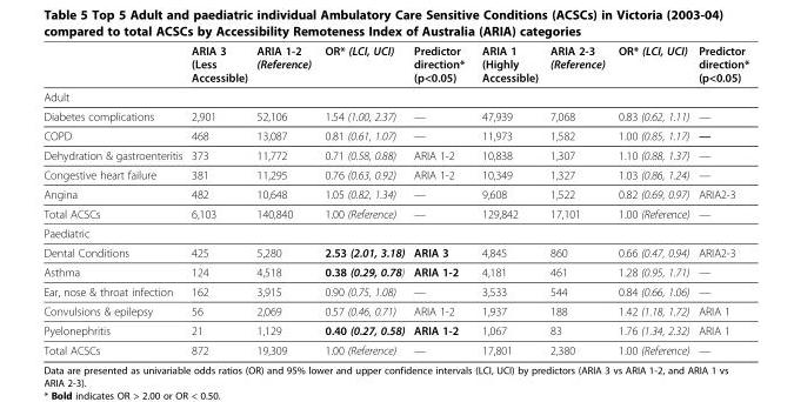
<table><thead><tr><td></td><td>ARIA 3 (Less Accessible)</td><td>ARIA 1-2 (Reference)</td><td>OR* (LCI, UCI)</td><td>Predictor direction* (p&lt;0.05)</td><td>ARIA 1 (Highly Accessible)</td><td>ARIA 2-3 (Reference)</td><td>OR* (LCI, UCI)</td><td>Predictor direction* (p&lt;0.05)</td></tr></thead><tbody><tr><td colspan="9">Adult</td></tr><tr><td>Diabetes complications</td><td>2,901</td><td>52,106</td><td>1.54 (1.00, 2.37)</td><td>—</td><td>47,939</td><td>7,068</td><td>0.83 (0.62, 1.11)</td><td>—</td></tr><tr><td>COPD</td><td>468</td><td>13,087</td><td>0.81 (0.61, 1.07)</td><td>—</td><td>11,973</td><td>1,582</td><td>1.00 (0.85, 1.17)</td><td>—</td></tr><tr><td>Dehydration &amp; gastroenteritis</td><td>373</td><td>11,772</td><td>0.71 (0.58, 0.88)</td><td>ARIA 1-2</td><td>10,838</td><td>1,307</td><td>1.10 (0.88, 1.37)</td><td>—</td></tr><tr><td>Congestive heart failure</td><td>381</td><td>11,295</td><td>0.76 (0.63, 0.92)</td><td>ARIA 1-2</td><td>10,349</td><td>1,327</td><td>1.03 (0.86, 1.24)</td><td>—</td></tr><tr><td>Angina</td><td>482</td><td>10,648</td><td>1.05 (0.82, 1.34)</td><td>—</td><td>9,608</td><td>1,522</td><td>0.82 (0.69, 0.97)</td><td>ARIA2-3</td></tr><tr><td>Total ACSCs</td><td>6,103</td><td>140,840</td><td>1.00 (Reference)</td><td>—</td><td>129,842</td><td>17,101</td><td>1.00 (Reference)</td><td>—</td></tr><tr><td colspan="9">Paediatric</td></tr><tr><td>Dental Conditions</td><td>425</td><td>5,280</td><td>2.53 (2.01, 3.18)</td><td>ARIA 3</td><td>4,845</td><td>860</td><td>0.66 (0.47, 0.94)</td><td>ARIA2-3</td></tr><tr><td>Asthma</td><td>124</td><td>4,518</td><td>0.38 (0.29, 0.78)</td><td>ARIA 1-2</td><td>4,181</td><td>461</td><td>1.28 (0.95, 1.71)</td><td>—</td></tr><tr><td>Ear, nose &amp; throat infection</td><td>162</td><td>3,915</td><td>0.90 (0.75, 1.08)</td><td>—</td><td>3,533</td><td>544</td><td>0.84 (0.66, 1.06)</td><td>—</td></tr><tr><td>Convulsions &amp; epilepsy</td><td>56</td><td>2,069</td><td>0.57 (0.46, 0.71)</td><td>ARIA 1-2</td><td>1,937</td><td>188</td><td>1.42 (1.18, 1.72)</td><td>ARIA 1</td></tr><tr><td>Pyelonephritis</td><td>21</td><td>1,129</td><td>0.40 (0.27, 0.58)</td><td>ARIA 1-2</td><td>1,067</td><td>83</td><td>1.76 (1.34, 2.32)</td><td>ARIA 1</td></tr><tr><td>Total ACSCs</td><td>872</td><td>19,309</td><td>1.00 (Reference)</td><td>—</td><td>17,801</td><td>2,380</td><td>1.00 (Reference)</td><td>—</td></tr></tbody></table>